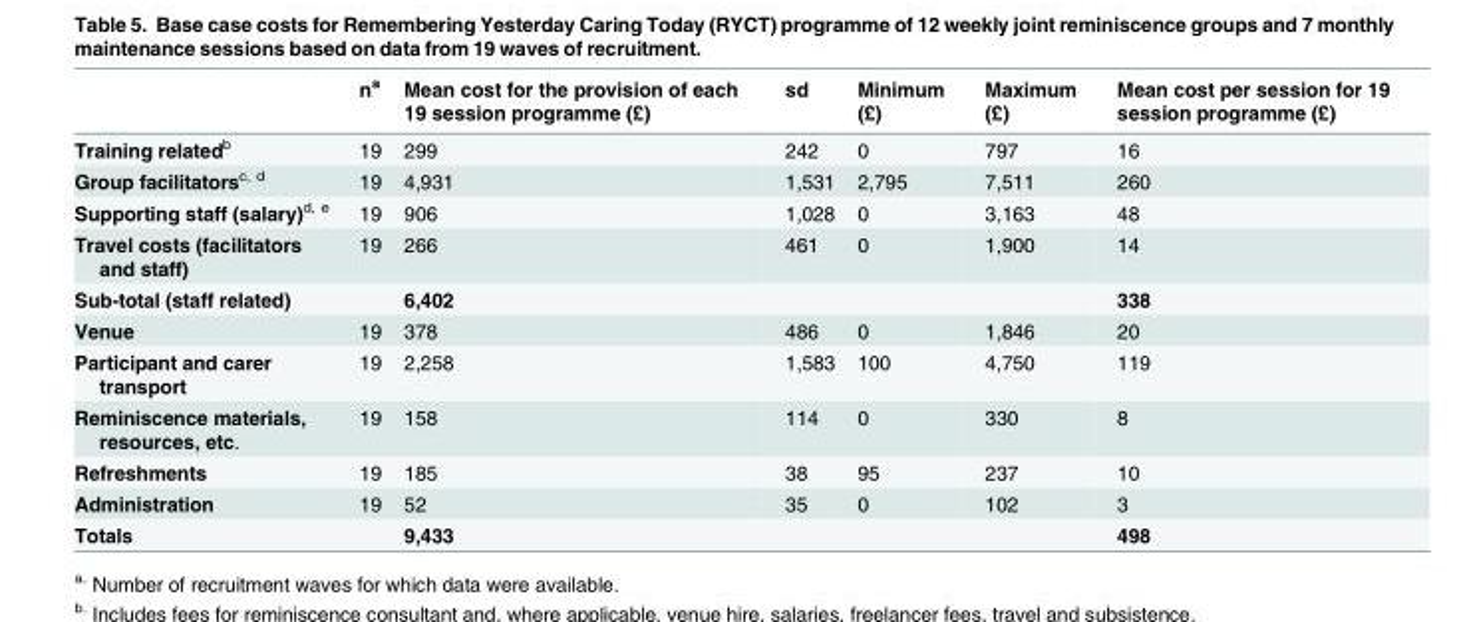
<table><thead><tr><td></td><td>n<sup>a</sup></td><td>Mean cost for the provision of each 19 session programme (£)</td><td>sd</td><td>Minimum (£)</td><td>Maximum (£)</td><td>Mean cost per session for 19 session programme (£)</td></tr></thead><tbody><tr><td>Training related<sup>b</sup></td><td>19</td><td>299</td><td>242</td><td>0</td><td>797</td><td>16</td></tr><tr><td>Group facilitators<sup>c, d</sup></td><td>19</td><td>4,931</td><td>1,531</td><td>2,795</td><td>7,511</td><td>260</td></tr><tr><td>Supporting staff (salary)<sup>d, e</sup></td><td>19</td><td>906</td><td>1,028</td><td>0</td><td>3,163</td><td>48</td></tr><tr><td>Travel costs (facilitators and staff)</td><td>19</td><td>266</td><td>461</td><td>0</td><td>1,900</td><td>14</td></tr><tr><td>Sub-total (staff related)</td><td></td><td>6,402</td><td></td><td></td><td></td><td>338</td></tr><tr><td>Venue</td><td>19</td><td>378</td><td>486</td><td>0</td><td>1,846</td><td>20</td></tr><tr><td>Participant and carer transport</td><td>19</td><td>2,258</td><td>1,583</td><td>100</td><td>4,750</td><td>119</td></tr><tr><td>Reminiscence materials, resources, etc.</td><td>19</td><td>158</td><td>114</td><td>0</td><td>330</td><td>8</td></tr><tr><td>Refreshments</td><td>19</td><td>185</td><td>38</td><td>95</td><td>237</td><td>10</td></tr><tr><td>Administration</td><td>19</td><td>52</td><td>35</td><td>0</td><td>102</td><td>3</td></tr><tr><td>Totals</td><td></td><td>9,433</td><td></td><td></td><td></td><td>498</td></tr></tbody></table>